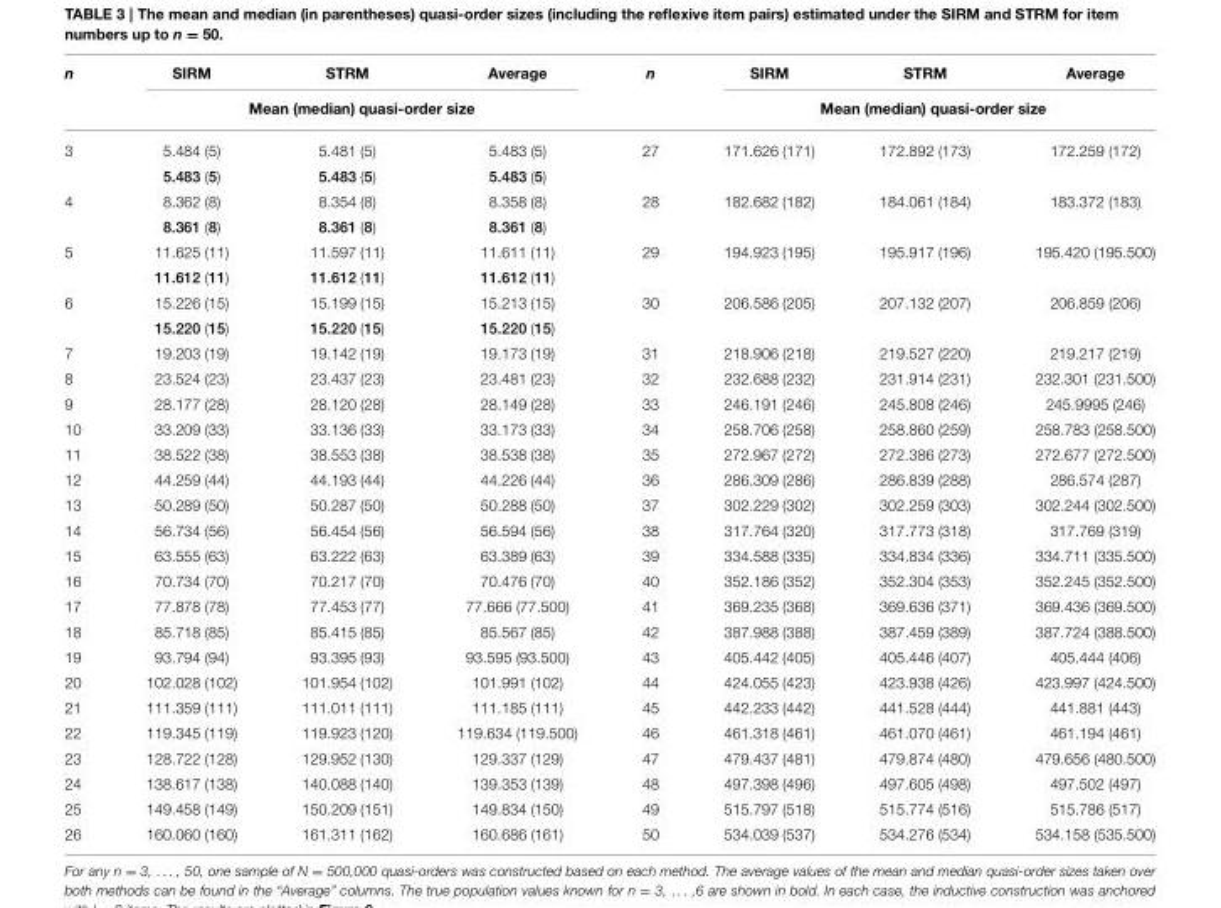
<table><thead><tr><td rowspan="2">n</td><td>SIRM</td><td>STRM</td><td>Average</td><td rowspan="2">n</td><td>SIRM</td><td>STRM</td><td>Average</td></tr><tr><td colspan="3">Mean (median) quasi-order size</td><td colspan="3">Mean (median) quasi-order size</td></tr></thead><tbody><tr><td rowspan="2">3</td><td>5.484 (5)</td><td>5.481 (5)</td><td>5.483 (5)</td><td>27</td><td>171.626 (171)</td><td>172.892 (173)</td><td>172.259 (172)</td></tr><tr><td>5.483 (5)</td><td>5.483 (5)</td><td>5.483 (5)</td><td></td><td></td><td></td><td></td></tr><tr><td rowspan="2">4</td><td>8.362 (8)</td><td>8.354 (8)</td><td>8.358 (8)</td><td>28</td><td>182.682 (182)</td><td>184.061 (184)</td><td>183.372 (183)</td></tr><tr><td>8.361 (8)</td><td>8.361 (8)</td><td>8.361 (8)</td><td></td><td></td><td></td><td></td></tr><tr><td rowspan="2">5</td><td>11.625 (11)</td><td>11.597 (11)</td><td>11.611 (11)</td><td>29</td><td>194.923 (195)</td><td>195.917 (196)</td><td>195.420 (195.500)</td></tr><tr><td>11.612 (11)</td><td>11.612 (11)</td><td>11.612 (11)</td><td></td><td></td><td></td><td></td></tr><tr><td rowspan="2">6</td><td>15.226 (15)</td><td>15.199 (15)</td><td>15.213 (15)</td><td>30</td><td>206.586 (205)</td><td>207.132 (207)</td><td>206.859 (206)</td></tr><tr><td>15.220 (15)</td><td>15.220 (15)</td><td>15.220 (15)</td><td></td><td></td><td></td><td></td></tr><tr><td>7</td><td>19.203 (19)</td><td>19.142 (19)</td><td>19.173 (19)</td><td>31</td><td>218.906 (218)</td><td>219.527 (220)</td><td>219.217 (219)</td></tr><tr><td>8</td><td>23.524 (23)</td><td>23.437 (23)</td><td>23.481 (23)</td><td>32</td><td>232.688 (232)</td><td>231.914 (231)</td><td>232.301 (231.500)</td></tr><tr><td>9</td><td>28.177 (28)</td><td>28.120 (28)</td><td>28.149 (28)</td><td>33</td><td>246.191 (246)</td><td>245.808 (246)</td><td>245.9995 (246)</td></tr><tr><td>10</td><td>33.209 (33)</td><td>33.136 (33)</td><td>33.173 (33)</td><td>34</td><td>258.706 (258)</td><td>258.860 (259)</td><td>258.783 (258.500)</td></tr><tr><td>11</td><td>38.522 (38)</td><td>38.553 (38)</td><td>38.538 (38)</td><td>35</td><td>272.967 (272)</td><td>272.386 (273)</td><td>272.677 (272.500)</td></tr><tr><td>12</td><td>44.259 (44)</td><td>44.193 (44)</td><td>44.226 (44)</td><td>36</td><td>286.309 (286)</td><td>286.839 (288)</td><td>286.574 (287)</td></tr><tr><td>13</td><td>50.289 (50)</td><td>50.287 (50)</td><td>50.288 (50)</td><td>37</td><td>302.229 (302)</td><td>302.259 (303)</td><td>302.244 (302.500)</td></tr><tr><td>14</td><td>56.734 (56)</td><td>56.454 (56)</td><td>56.594 (56)</td><td>38</td><td>317.764 (320)</td><td>317.773 (318)</td><td>317.769 (319)</td></tr><tr><td>15</td><td>63.555 (63)</td><td>63.222 (63)</td><td>63.389 (63)</td><td>39</td><td>334.588 (335)</td><td>334.834 (336)</td><td>334.711 (335.500)</td></tr><tr><td>16</td><td>70.734 (70)</td><td>70.217 (70)</td><td>70.476 (70)</td><td>40</td><td>352.186 (352)</td><td>352.304 (353)</td><td>352.245 (352.500)</td></tr><tr><td>17</td><td>77.878 (78)</td><td>77.453 (77)</td><td>77.666 (77.500)</td><td>41</td><td>369.235 (368)</td><td>369.636 (371)</td><td>369.436 (369.500)</td></tr><tr><td>18</td><td>85.718 (85)</td><td>85.415 (85)</td><td>85.567 (85)</td><td>42</td><td>387.988 (388)</td><td>387.459 (389)</td><td>387.724 (388.500)</td></tr><tr><td>19</td><td>93.794 (94)</td><td>93.395 (93)</td><td>93.595 (93.500)</td><td>43</td><td>405.442 (405)</td><td>405.446 (407)</td><td>405.444 (406)</td></tr><tr><td>20</td><td>102.028 (102)</td><td>101.954 (102)</td><td>101.991 (102)</td><td>44</td><td>424.055 (423)</td><td>423.938 (426)</td><td>423.997 (424.500)</td></tr><tr><td>21</td><td>111.359 (111)</td><td>111.011 (111)</td><td>111.185 (111)</td><td>45</td><td>442.233 (442)</td><td>441.528 (444)</td><td>441.881 (443)</td></tr><tr><td>22</td><td>119.345 (119)</td><td>119.923 (120)</td><td>119.634 (119.500)</td><td>46</td><td>461.318 (461)</td><td>461.070 (461)</td><td>461.194 (461)</td></tr><tr><td>23</td><td>128.722 (128)</td><td>129.952 (130)</td><td>129.337 (129)</td><td>47</td><td>479.437 (481)</td><td>479.874 (480)</td><td>479.656 (480.500)</td></tr><tr><td>24</td><td>138.617 (138)</td><td>140.088 (140)</td><td>139.353 (139)</td><td>48</td><td>497.398 (496)</td><td>497.605 (498)</td><td>497.502 (497)</td></tr><tr><td>25</td><td>149.458 (149)</td><td>150.209 (151)</td><td>149.834 (150)</td><td>49</td><td>515.797 (518)</td><td>515.774 (516)</td><td>515.786 (517)</td></tr><tr><td>26</td><td>160.060 (160)</td><td>161.311 (162)</td><td>160.686 (161)</td><td>50</td><td>534.039 (537)</td><td>534.276 (534)</td><td>534.158 (535.500)</td></tr></tbody></table>